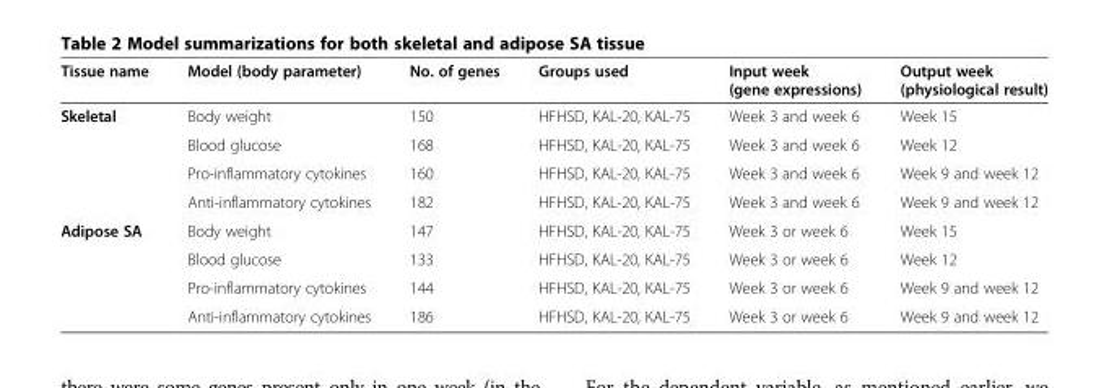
<table><thead><tr><td>Tissue name</td><td>Model (body parameter)</td><td>No. of genes</td><td>Groups used</td><td>Input week (gene expressions)</td><td>Output week (physiological result)</td></tr></thead><tbody><tr><td rowspan="4">Skeletal</td><td>Body weight</td><td>150</td><td>HFHSD, KAL-20, KAL-75</td><td>Week 3 and week 6</td><td>Week 15</td></tr><tr><td>Blood glucose</td><td>168</td><td>HFHSD, KAL-20, KAL-75</td><td>Week 3 and week 6</td><td>Week 12</td></tr><tr><td>Pro-inflammatory cytokines</td><td>160</td><td>HFHSD, KAL-20, KAL-75</td><td>Week 3 and week 6</td><td>Week 9 and week 12</td></tr><tr><td>Anti-inflammatory cytokines</td><td>182</td><td>HFHSD, KAL-20, KAL-75</td><td>Week 3 and week 6</td><td>Week 9 and week 12</td></tr><tr><td rowspan="4">Adipose SA</td><td>Body weight</td><td>147</td><td>HFHSD, KAL-20, KAL-75</td><td>Week 3 or week 6</td><td>Week 15</td></tr><tr><td>Blood glucose</td><td>133</td><td>HFHSD, KAL-20, KAL-75</td><td>Week 3 or week 6</td><td>Week 12</td></tr><tr><td>Pro-inflammatory cytokines</td><td>144</td><td>HFHSD, KAL-20, KAL-75</td><td>Week 3 or week 6</td><td>Week 9 and week 12</td></tr><tr><td>Anti-inflammatory cytokines</td><td>186</td><td>HFHSD, KAL-20, KAL-75</td><td>Week 3 or week 6</td><td>Week 9 and week 12</td></tr></tbody></table>